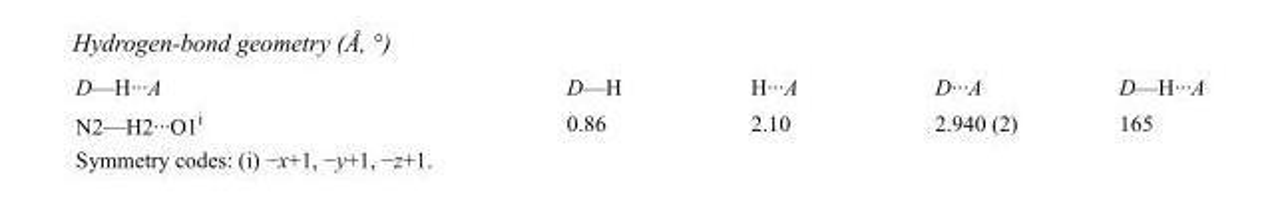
<table><tbody><tr><td>D—H···A</td><td>D—H</td><td>H···A</td><td>D···A</td><td>D—H···A</td></tr><tr><td>N2—H2···O1<sup>i</sup></td><td>0.86</td><td>2.10</td><td>2.940 (2)</td><td>165</td></tr></tbody></table>